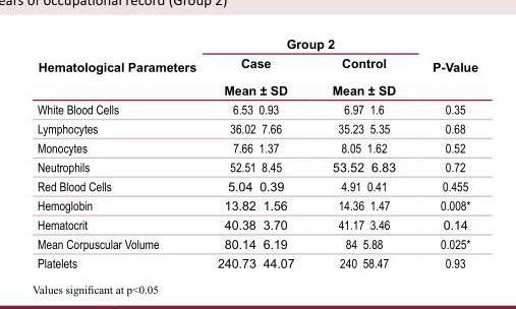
<table><thead><tr><td rowspan="2">Hematological Parameters</td><td colspan="2">Group 2</td><td rowspan="2">P-Value</td></tr><tr><td>Case Mean ± SD</td><td>Control Mean ± SD</td></tr></thead><tbody><tr><td>White Blood Cells</td><td>6.53 0.93</td><td>6.97 1.6</td><td>0.35</td></tr><tr><td>Lymphocytes</td><td>36.02 7.66</td><td>35.23 5.35</td><td>0.68</td></tr><tr><td>Monocytes</td><td>7.66 1.37</td><td>8.05 1.62</td><td>0.52</td></tr><tr><td>Neutrophils</td><td>52.51 8.45</td><td>53.52 6.83</td><td>0.72</td></tr><tr><td>Red Blood Cells</td><td>5.04 0.39</td><td>4.91 0.41</td><td>0.455</td></tr><tr><td>Hemoglobin</td><td>13.82 1.56</td><td>14.36 1.47</td><td>0.008*</td></tr><tr><td>Hematocrit</td><td>40.38 3.70</td><td>41.17 3.46</td><td>0.14</td></tr><tr><td>Mean Corpuscular Volume</td><td>80.14 6.19</td><td>84 5.88</td><td>0.025*</td></tr><tr><td>Platelets</td><td>240.73 44.07</td><td>240 58.47</td><td>0.93</td></tr></tbody></table>